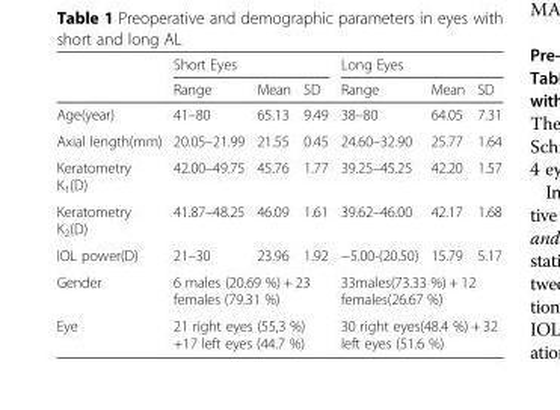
<table><thead><tr><td rowspan="2"></td><td colspan="3">Short Eyes</td><td colspan="3">Long Eyes</td></tr><tr><td>Range</td><td>Mean</td><td>SD</td><td>Range</td><td>Mean</td><td>SD</td></tr></thead><tbody><tr><td>Age(year)</td><td>41–80</td><td>65.13</td><td>9.49</td><td>38–80</td><td>64.05</td><td>7.31</td></tr><tr><td>Axial length(mm)</td><td>20.05–21.99</td><td>21.55</td><td>0.45</td><td>24.60–32.90</td><td>25.77</td><td>1.64</td></tr><tr><td>Keratometry K<sub>1</sub>(D)</td><td>42.00–49.75</td><td>45.76</td><td>1.77</td><td>39.25–45.25</td><td>42.20</td><td>1.57</td></tr><tr><td>Keratometry K<sub>2</sub>(D)</td><td>41.87–48.25</td><td>46.09</td><td>1.61</td><td>39.62–46.00</td><td>42.17</td><td>1.68</td></tr><tr><td>IOL power(D)</td><td>21–30</td><td>23.96</td><td>1.92</td><td>−5.00-(20.50)</td><td>15.79</td><td>5.17</td></tr><tr><td>Gender</td><td colspan="3">6 males (20.69 %) + 23 females (79.31 %)</td><td colspan="3">33males(73.33 %) + 12 females(26.67 %)</td></tr><tr><td>Eye</td><td colspan="3">21 right eyes (55,3 %) +17 left eyes (44.7 %)</td><td colspan="3">30 right eyes(48.4 %) + 32 left eyes (51.6 %)</td></tr></tbody></table>